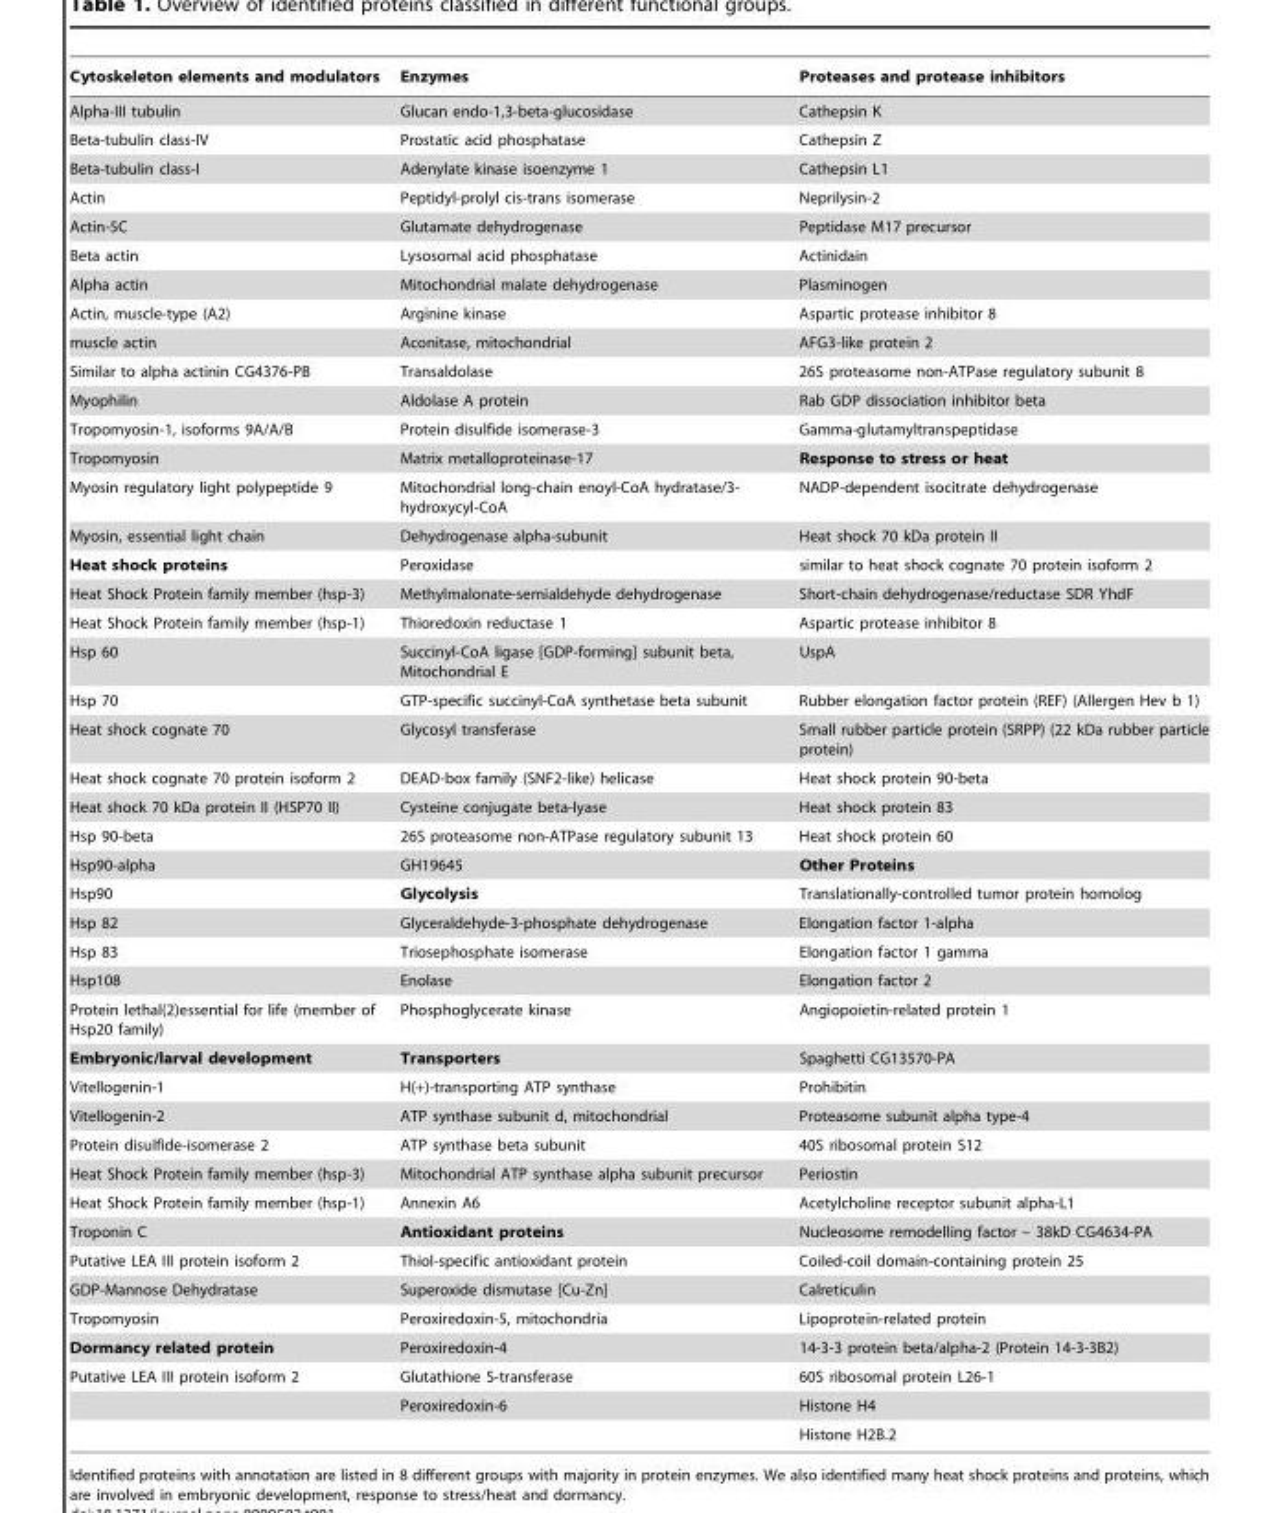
<table><thead><tr><td>Cytoskeleton elements and modulators</td><td>Enzymes</td><td>Proteases and protease inhibitors</td></tr></thead><tbody><tr><td>Alpha-III tubulin</td><td>Glucan endo-1,3-beta-glucosidase</td><td>Cathepsin K</td></tr><tr><td>Beta-tubulin class-IV</td><td>Prostatic acid phosphatase</td><td>Cathepsin Z</td></tr><tr><td>Beta-tubulin class-I</td><td>Adenylate kinase isoenzyme 1</td><td>Cathepsin L1</td></tr><tr><td>Actin</td><td>Peptidyl-prolyl cis-trans isomerase</td><td>Neprilysin-2</td></tr><tr><td>Actin-5C</td><td>Glutamate dehydrogenase</td><td>Peptidase M17 precursor</td></tr><tr><td>Beta actin</td><td>Lysosomal acid phosphatase</td><td>Actinidain</td></tr><tr><td>Alpha actin</td><td>Mitochondrial malate dehydrogenase</td><td>Plasminogen</td></tr><tr><td>Actin, muscle-type (A2)</td><td>Arginine kinase</td><td>Aspartic protease inhibitor 8</td></tr><tr><td>muscle actin</td><td>Aconitase, mitochondrial</td><td>AFG3-like protein 2</td></tr><tr><td>Similar to alpha actinin CG4376-PB</td><td>Transaldolase</td><td>26S proteasome non-ATPase regulatory subunit 8</td></tr><tr><td>Myophilin</td><td>Aldolase A protein</td><td>Rab GDP dissociation inhibitor beta</td></tr><tr><td>Tropomyosin-1, isoforms 9A/A/B</td><td>Protein disulfide isomerase-3</td><td>Gamma-glutamyltranspeptidase</td></tr><tr><td>Tropomyosin</td><td>Matrix metalloproteinase-17</td><td>Response to stress or heat</td></tr><tr><td>Myosin regulatory light polypeptide 9</td><td>Mitochondrial long-chain enoyl-CoA hydratase/3- hydroxycyl-CoA</td><td>NADP-dependent isocitrate dehydrogenase</td></tr><tr><td>Myosin, essential light chain</td><td>Dehydrogenase alpha-subunit</td><td>Heat shock 70 kDa protein II</td></tr><tr><td>Heat shock proteins</td><td>Peroxidase</td><td>similar to heat shock cognate 70 protein isoform 2</td></tr><tr><td>Heat Shock Protein family member (hsp-3)</td><td>Methylmalonate-semialdehyde dehydrogenase</td><td>Short-chain dehydrogenase/reductase SDR YhdF</td></tr><tr><td>Heat Shock Protein family member (hsp-1)</td><td>Thioredoxin reductase 1</td><td>Aspartic protease inhibitor 8</td></tr><tr><td>Hsp 60</td><td>Succinyl-CoA ligase [GDP-forming] subunit beta, Mitochondrial E</td><td>UspA</td></tr><tr><td>Hsp 70</td><td>GTP-specific succinyl-CoA synthetase beta subunit</td><td>Rubber elongation factor protein (REF) (Allergen Hev b 1)</td></tr><tr><td>Heat shock cognate 70</td><td>Glycosyl transferase</td><td>Small rubber particle protein (SRPP) (22 kDa rubber particle protein)</td></tr><tr><td>Heat shock cognate 70 protein isoform 2</td><td>DEAD-box family (SNF2-like) helicase</td><td>Heat shock protein 90-beta</td></tr><tr><td>Heat shock 70 kDa protein II (HSP70 II)</td><td>Cysteine conjugate beta-lyase</td><td>Heat shock protein 83</td></tr><tr><td>Hsp 90-beta</td><td>26S proteasome non-ATPase regulatory subunit 13</td><td>Heat shock protein 60</td></tr><tr><td>Hsp90-alpha</td><td>GH19645</td><td>Other Proteins</td></tr><tr><td>Hsp90</td><td>Glycolysis</td><td>Translationally-controlled tumor protein homolog</td></tr><tr><td>Hsp 82</td><td>Glyceraldehyde-3-phosphate dehydrogenase</td><td>Elongation factor 1-alpha</td></tr><tr><td>Hsp 83</td><td>Triosephosphate isomerase</td><td>Elongation factor 1 gamma</td></tr><tr><td>Hsp108</td><td>Enolase</td><td>Elongation factor 2</td></tr><tr><td>Protein lethal(2)essential for life (member of Hsp20 family)</td><td>Phosphoglycerate kinase</td><td>Angiopoietin-related protein 1</td></tr><tr><td>Embryonic/larval development</td><td>Transporters</td><td>Spaghetti CG13570-PA</td></tr><tr><td>Vitellogenin-1</td><td>H(+)-transporting ATP synthase</td><td>Prohibitin</td></tr><tr><td>Vitellogenin-2</td><td>ATP synthase subunit d, mitochondrial</td><td>Proteasome subunit alpha type-4</td></tr><tr><td>Protein disulfide-isomerase 2</td><td>ATP synthase beta subunit</td><td>40S ribosomal protein S12</td></tr><tr><td>Heat Shock Protein family member (hsp-3)</td><td>Mitochondrial ATP synthase alpha subunit precursor</td><td>Periostin</td></tr><tr><td>Heat Shock Protein family member (hsp-1)</td><td>Annexin A6</td><td>Acetylcholine receptor subunit alpha-L1</td></tr><tr><td>Troponin C</td><td>Antioxidant proteins</td><td>Nucleosome remodelling factor – 38kD CG4634-PA</td></tr><tr><td>Putative LEA III protein isoform 2</td><td>Thiol-specific antioxidant protein</td><td>Coiled-coil domain-containing protein 25</td></tr><tr><td>GDP-Mannose Dehydratase</td><td>Superoxide dismutase [Cu-Zn]</td><td>Calreticulin</td></tr><tr><td>Tropomyosin</td><td>Peroxiredoxin-5, mitochondria</td><td>Lipoprotein-related protein</td></tr><tr><td>Dormancy related protein</td><td>Peroxiredoxin-4</td><td>14-3-3 protein beta/alpha-2 (Protein 14-3-3B2)</td></tr><tr><td rowspan="3">Putative LEA III protein isoform 2</td><td>Glutathione S-transferase</td><td>60S ribosomal protein L26-1</td></tr><tr><td>Peroxiredoxin-6</td><td>Histone H4</td></tr><tr><td></td><td>Histone H2B.2</td></tr></tbody></table>